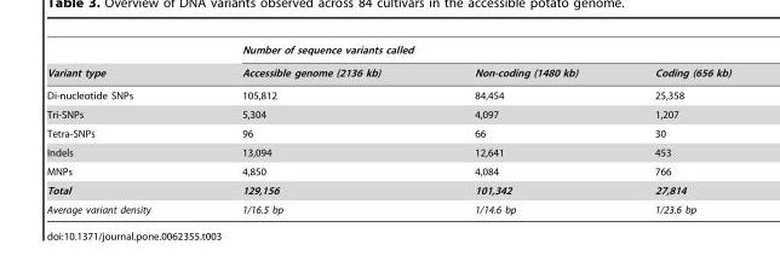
<table><thead><tr><td rowspan="2">Variant type</td><td colspan="3">Number of sequence variants called</td></tr><tr><td>Accessible genome (2136 kb)</td><td>Non-coding (1480 kb)</td><td>Coding (656 kb)</td></tr></thead><tbody><tr><td>Di-nucleotide SNPs</td><td>105,812</td><td>84,454</td><td>25,358</td></tr><tr><td>Tri-SNPs</td><td>5,304</td><td>4,097</td><td>1,207</td></tr><tr><td>Tetra-SNPs</td><td>96</td><td>66</td><td>30</td></tr><tr><td>Indels</td><td>13,094</td><td>12,641</td><td>453</td></tr><tr><td>MNPs</td><td>4,850</td><td>4,084</td><td>766</td></tr><tr><td>Total</td><td>129,156</td><td>101,342</td><td>27,814</td></tr><tr><td>Average variant density</td><td>1/16.5 bp</td><td>1/14.6 bp</td><td>1/23.6 bp</td></tr></tbody></table>